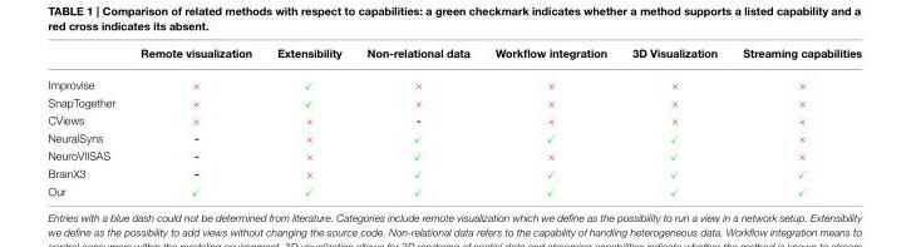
<table><thead><tr><td></td><td>Remote visualization</td><td>Extensibility</td><td>Non-relational data</td><td>Workflow integration</td><td>3D Visualization</td><td>Streaming capabilities</td></tr></thead><tbody><tr><td>Improvise</td><td>×</td><td>✓</td><td>×</td><td>×</td><td>×</td><td>×</td></tr><tr><td>SnapTogether</td><td>×</td><td>✓</td><td>×</td><td>×</td><td>×</td><td>×</td></tr><tr><td>CViews</td><td>×</td><td>×</td><td>-</td><td>×</td><td>×</td><td>×</td></tr><tr><td>NeuralSyns</td><td>-</td><td>×</td><td>✓</td><td>✓</td><td>✓</td><td>×</td></tr><tr><td>NeuroVIISAS</td><td>-</td><td>×</td><td>✓</td><td>×</td><td>✓</td><td>×</td></tr><tr><td>BrainX3</td><td>-</td><td>×</td><td>✓</td><td>✓</td><td>✓</td><td>✓</td></tr><tr><td>Our</td><td>✓</td><td>✓</td><td>✓</td><td>✓</td><td>✓</td><td>✓</td></tr></tbody></table>